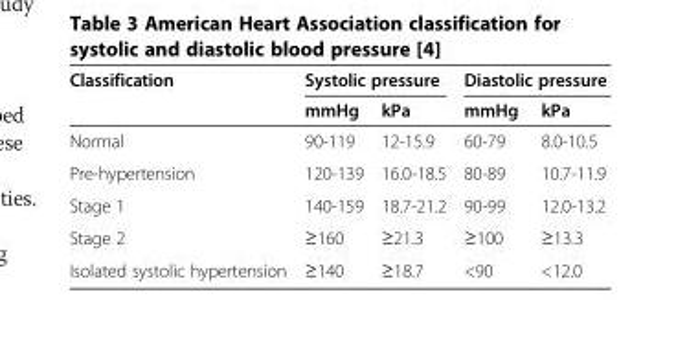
<table><thead><tr><td rowspan="2">Classification</td><td colspan="2">Systolic pressure</td><td colspan="2">Diastolic pressure</td></tr><tr><td>mmHg</td><td>kPa</td><td>mmHg</td><td>kPa</td></tr></thead><tbody><tr><td>Normal</td><td>90-119</td><td>12-15.9</td><td>60-79</td><td>8.0-10.5</td></tr><tr><td>Pre-hypertension</td><td>120-139</td><td>16.0-18.5</td><td>80-89</td><td>10.7-11.9</td></tr><tr><td>Stage 1</td><td>140-159</td><td>18.7-21.2</td><td>90-99</td><td>12.0-13.2</td></tr><tr><td>Stage 2</td><td>≥160</td><td>≥21.3</td><td>≥100</td><td>≥13.3</td></tr><tr><td>Isolated systolic hypertension</td><td>≥140</td><td>≥18.7</td><td>&lt;90</td><td>&lt;12.0</td></tr></tbody></table>